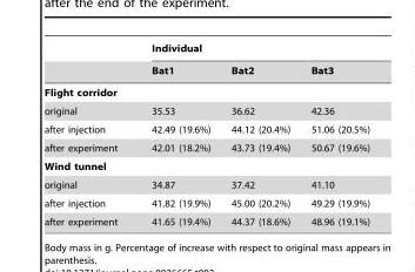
<table><thead><tr><td rowspan="2"></td><td colspan="3">Individual</td></tr><tr><td>Bat1</td><td>Bat2</td><td>Bat3</td></tr></thead><tbody><tr><td colspan="4">Flight corridor</td></tr><tr><td>original</td><td>35.53</td><td>36.62</td><td>42.36</td></tr><tr><td>after injection</td><td>42.49 (19.6%)</td><td>44.12 (20.4%)</td><td>51.06 (20.5%)</td></tr><tr><td>after experiment</td><td>42.01 (18.2%)</td><td>43.73 (19.4%)</td><td>50.67 (19.6%)</td></tr><tr><td colspan="4">Wind tunnel</td></tr><tr><td>original</td><td>34.87</td><td>37.42</td><td>41.10</td></tr><tr><td>after injection</td><td>41.82 (19.9%)</td><td>45.00 (20.2%)</td><td>49.29 (19.9%)</td></tr><tr><td>after experiment</td><td>41.65 (19.4%)</td><td>44.37 (18.6%)</td><td>48.96 (19.1%)</td></tr></tbody></table>